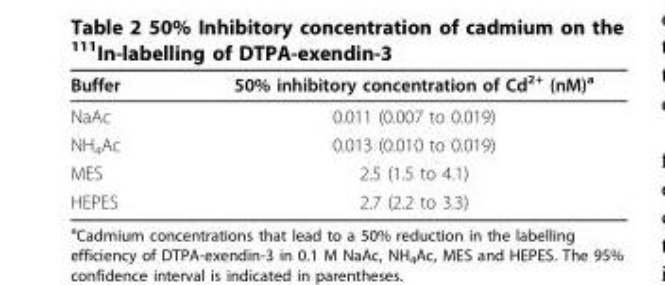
<table><thead><tr><td>Buffer</td><td>50% inhibitory concentration of Cd<sup>2+</sup> (nM)<sup>a</sup></td></tr></thead><tbody><tr><td>NaAc</td><td>0.011 (0.007 to 0.019)</td></tr><tr><td>NH<sub>4</sub>Ac</td><td>0.013 (0.010 to 0.019)</td></tr><tr><td>MES</td><td>2.5 (1.5 to 4.1)</td></tr><tr><td>HEPES</td><td>2.7 (2.2 to 3.3)</td></tr></tbody></table>